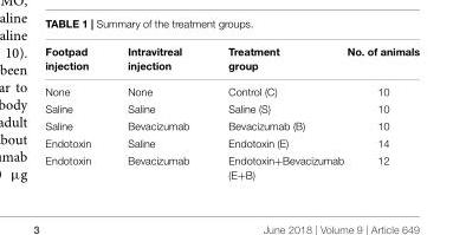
<table><thead><tr><td>Footpad injection</td><td>Intravitreal injection</td><td>Treatment group</td><td>No. of animals</td></tr></thead><tbody><tr><td>None</td><td>None</td><td>Control (C)</td><td>10</td></tr><tr><td>Saline</td><td>Saline</td><td>Saline (S)</td><td>10</td></tr><tr><td>Saline</td><td>Bevacizumab</td><td>Bevacizumab (B)</td><td>10</td></tr><tr><td>Endotoxin</td><td>Saline</td><td>Endotoxin (E)</td><td>14</td></tr><tr><td>Endotoxin</td><td>Bevacizumab</td><td>Endotoxin+Bevacizumab (E+B)</td><td>12</td></tr></tbody></table>